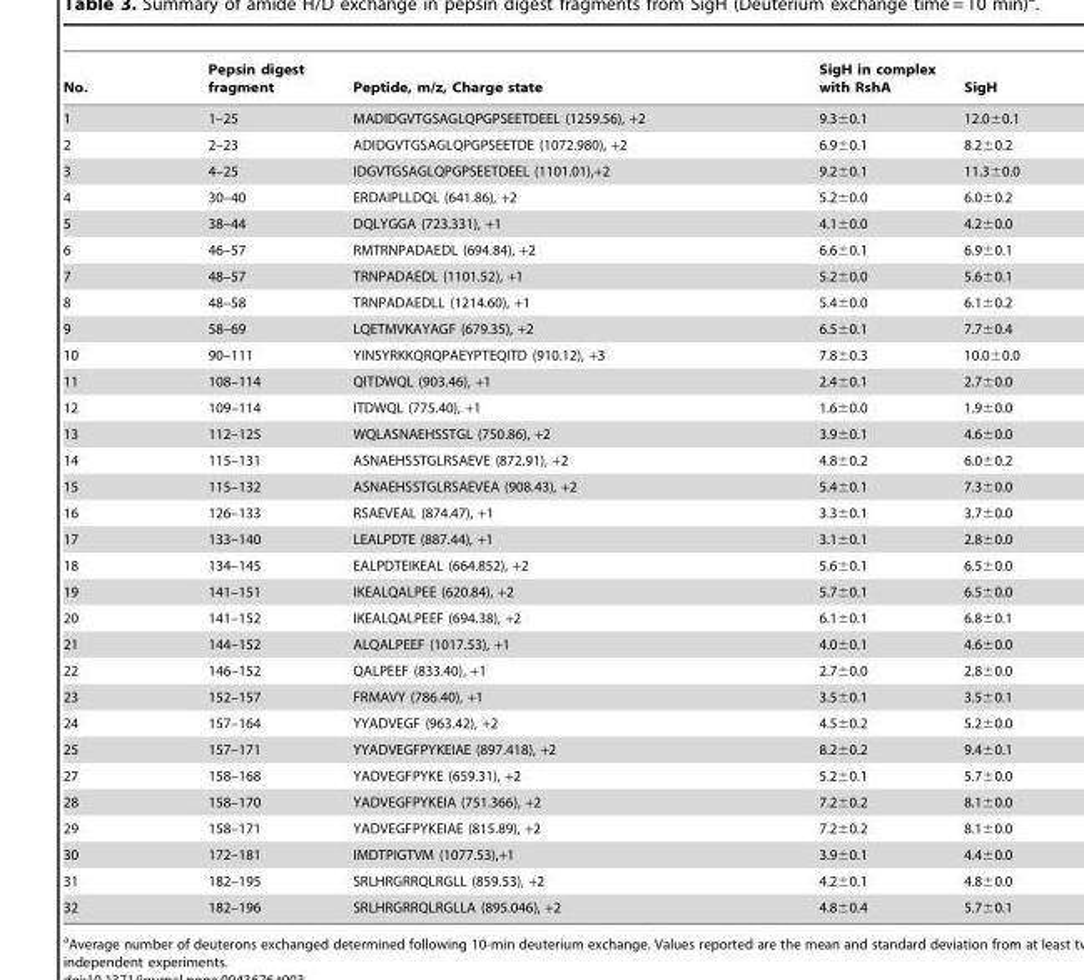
<table><thead><tr><td>No.</td><td>Pepsin digest fragment</td><td>Peptide, m/z, Charge state</td><td>SigH in complex with RshA</td><td>SigH</td></tr></thead><tbody><tr><td>1</td><td>1–25</td><td>MADIDGVTGSAGLQPGPSEETDEEL (1259.56), +2</td><td>9.3±0.1</td><td>12.0±0.1</td></tr><tr><td>2</td><td>2–23</td><td>ADIDGVTGSAGLQPGPSEETDE (1072.980), +2</td><td>6.9±0.1</td><td>8.2±0.2</td></tr><tr><td>3</td><td>4–25</td><td>IDGVTGSAGLQPGPSEETDEEL (1101.01),+2</td><td>9.2±0.1</td><td>11.3±0.0</td></tr><tr><td>4</td><td>30–40</td><td>ERDAIPLLDQL (641.86), +2</td><td>5.2±0.0</td><td>6.0±0.2</td></tr><tr><td>5</td><td>38–44</td><td>DQLYGGA (723.331), +1</td><td>4.1±0.0</td><td>4.2±0.0</td></tr><tr><td>6</td><td>46–57</td><td>RMTRNPADAEDL (694.84), +2</td><td>6.6±0.1</td><td>6.9±0.1</td></tr><tr><td>7</td><td>48–57</td><td>TRNPADAEDL (1101.52), +1</td><td>5.2±0.0</td><td>5.6±0.1</td></tr><tr><td>8</td><td>48–58</td><td>TRNPADAEDLL (1214.60), +1</td><td>5.4±0.0</td><td>6.1±0.2</td></tr><tr><td>9</td><td>58–69</td><td>LQETMVKAYAGF (679.35), +2</td><td>6.5±0.1</td><td>7.7±0.4</td></tr><tr><td>10</td><td>90–111</td><td>YINSYRKKQRQPAEYPTEQITD (910.12), +3</td><td>7.8±0.3</td><td>10.0±0.0</td></tr><tr><td>11</td><td>108–114</td><td>QITDWQL (903.46), +1</td><td>2.4±0.1</td><td>2.7±0.0</td></tr><tr><td>12</td><td>109–114</td><td>ITDWQL (775.40), +1</td><td>1.6±0.0</td><td>1.9±0.0</td></tr><tr><td>13</td><td>112–125</td><td>WQLASNAEHSSTGL (750.86), +2</td><td>3.9±0.1</td><td>4.6±0.0</td></tr><tr><td>14</td><td>115–131</td><td>ASNAEHSSTGLRSAEVE (872.91), +2</td><td>4.8±0.2</td><td>6.0±0.2</td></tr><tr><td>15</td><td>115–132</td><td>ASNAEHSSTGLRSAEVEA (908.43), +2</td><td>5.4±0.1</td><td>7.3±0.0</td></tr><tr><td>16</td><td>126–133</td><td>RSAEVEAL (874.47), +1</td><td>3.3±0.1</td><td>3.7±0.0</td></tr><tr><td>17</td><td>133–140</td><td>LEALPDTE (887.44), +1</td><td>3.1±0.1</td><td>2.8±0.0</td></tr><tr><td>18</td><td>134–145</td><td>EALPDTEIKEAL (664.852), +2</td><td>5.6±0.1</td><td>6.5±0.0</td></tr><tr><td>19</td><td>141–151</td><td>IKEALQALPEE (620.84), +2</td><td>5.7±0.1</td><td>6.5±0.0</td></tr><tr><td>20</td><td>141–152</td><td>IKEALQALPEEF (694.38), +2</td><td>6.1±0.1</td><td>6.8±0.1</td></tr><tr><td>21</td><td>144–152</td><td>ALQALPEEF (1017.53), +1</td><td>4.0±0.1</td><td>4.6±0.0</td></tr><tr><td>22</td><td>146–152</td><td>QALPEEF (833.40), +1</td><td>2.7±0.0</td><td>2.8±0.0</td></tr><tr><td>23</td><td>152–157</td><td>FRMAVY (786.40), +1</td><td>3.5±0.1</td><td>3.5±0.1</td></tr><tr><td>24</td><td>157–164</td><td>YYADVEGF (963.42), +2</td><td>4.5±0.2</td><td>5.2±0.0</td></tr><tr><td>25</td><td>157–171</td><td>YYADVEGFPYKEIAE (897.418), +2</td><td>8.2±0.2</td><td>9.4±0.1</td></tr><tr><td>27</td><td>158–168</td><td>YADVEGFPYKE (659.31), +2</td><td>5.2±0.1</td><td>5.7±0.0</td></tr><tr><td>28</td><td>158–170</td><td>YADVEGFPYKEIA (751.366), +2</td><td>7.2±0.2</td><td>8.1±0.0</td></tr><tr><td>29</td><td>158–171</td><td>YADVEGFPYKEIAE (815.89), +2</td><td>7.2±0.2</td><td>8.1±0.0</td></tr><tr><td>30</td><td>172–181</td><td>IMDTPIGTVM (1077.53),+1</td><td>3.9±0.1</td><td>4.4±0.0</td></tr><tr><td>31</td><td>182–195</td><td>SRLHRGRRQLRGLL (859.53), +2</td><td>4.2±0.1</td><td>4.8±0.0</td></tr><tr><td>32</td><td>182–196</td><td>SRLHRGRRQLRGLLA (895.046), +2</td><td>4.8±0.4</td><td>5.7±0.1</td></tr></tbody></table>